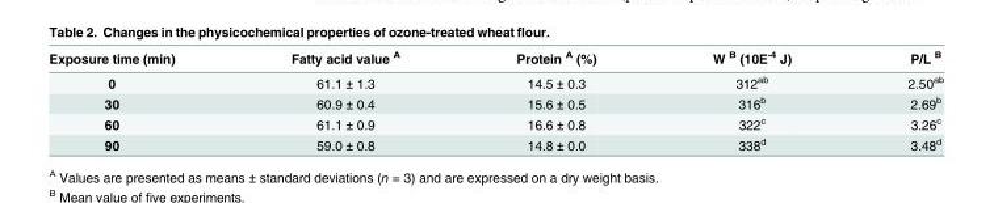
<table><thead><tr><td>Exposure time (min)</td><td>Fatty acid value <sup>A</sup></td><td>Protein <sup>A</sup> (%)</td><td>W <sup>B</sup> (10E<sup>-4</sup> J)</td><td>P/L <sup>B</sup></td></tr></thead><tbody><tr><td>0</td><td>61.1 ± 1.3</td><td>14.5 ± 0.3</td><td>312<sup>ab</sup></td><td>2.50<sup>ab</sup></td></tr><tr><td>30</td><td>60.9 ± 0.4</td><td>15.6 ± 0.5</td><td>316<sup>b</sup></td><td>2.69<sup>b</sup></td></tr><tr><td>60</td><td>61.1 ± 0.9</td><td>16.6 ± 0.8</td><td>322<sup>c</sup></td><td>3.26<sup>c</sup></td></tr><tr><td>90</td><td>59.0 ± 0.8</td><td>14.8 ± 0.0</td><td>338<sup>d</sup></td><td>3.48<sup>d</sup></td></tr></tbody></table>